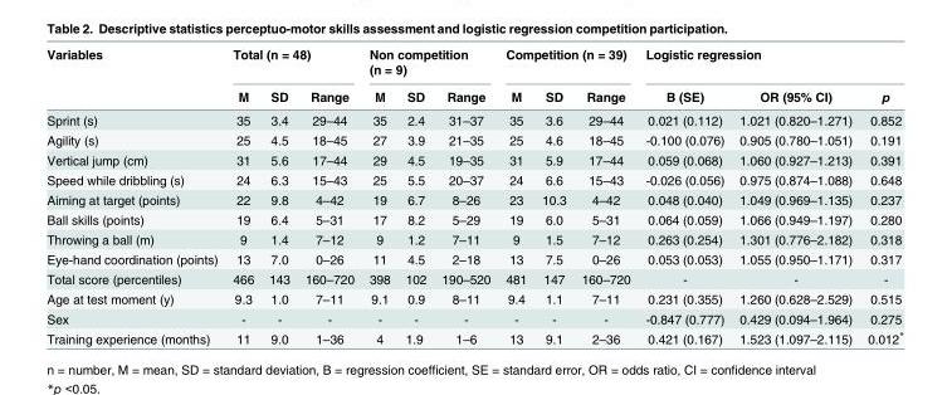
<table><thead><tr><td rowspan="2">Variables</td><td colspan="3">Total (n = 48)</td><td colspan="3">Non competition (n = 9)</td><td colspan="3">Competition (n = 39)</td><td colspan="3">Logistic regression</td></tr><tr><td>M</td><td>SD</td><td>Range</td><td>M</td><td>SD</td><td>Range</td><td>M</td><td>SD</td><td>Range</td><td>B (SE)</td><td>OR (95% CI)</td><td>p</td></tr></thead><tbody><tr><td>Sprint (s)</td><td>35</td><td>3.4</td><td>29–44</td><td>35</td><td>2.4</td><td>31–37</td><td>35</td><td>3.6</td><td>29–44</td><td>0.021 (0.112)</td><td>1.021 (0.820–1.271)</td><td>0.852</td></tr><tr><td>Agility (s)</td><td>25</td><td>4.5</td><td>18–45</td><td>27</td><td>3.9</td><td>21–35</td><td>25</td><td>4.6</td><td>18–45</td><td>-0.100 (0.076)</td><td>0.905 (0.780–1.051)</td><td>0.191</td></tr><tr><td>Vertical jump (cm)</td><td>31</td><td>5.6</td><td>17–44</td><td>29</td><td>4.5</td><td>19–35</td><td>31</td><td>5.9</td><td>17–44</td><td>0.059 (0.068)</td><td>1.060 (0.927–1.213)</td><td>0.391</td></tr><tr><td>Speed while dribbling (s)</td><td>24</td><td>6.3</td><td>15–43</td><td>25</td><td>5.5</td><td>20–37</td><td>24</td><td>6.6</td><td>15–43</td><td>-0.026 (0.056)</td><td>0.975 (0.874–1.088)</td><td>0.648</td></tr><tr><td>Aiming at target (points)</td><td>22</td><td>9.8</td><td>4–42</td><td>19</td><td>6.7</td><td>8–26</td><td>23</td><td>10.3</td><td>4–42</td><td>0.048 (0.040)</td><td>1.049 (0.969–1.135)</td><td>0.237</td></tr><tr><td>Ball skills (points)</td><td>19</td><td>6.4</td><td>5–31</td><td>17</td><td>8.2</td><td>5–29</td><td>19</td><td>6.0</td><td>5–31</td><td>0.064 (0.059)</td><td>1.066 (0.949–1.197)</td><td>0.280</td></tr><tr><td>Throwing a ball (m)</td><td>9</td><td>1.4</td><td>7–12</td><td>9</td><td>1.2</td><td>7–11</td><td>9</td><td>1.5</td><td>7–12</td><td>0.263 (0.254)</td><td>1.301 (0.776–2.182)</td><td>0.318</td></tr><tr><td>Eye-hand coordination (points)</td><td>13</td><td>7.0</td><td>0–26</td><td>11</td><td>4.5</td><td>2–18</td><td>13</td><td>7.5</td><td>0–26</td><td>0.053 (0.053)</td><td>1.055 (0.950–1.171)</td><td>0.317</td></tr><tr><td>Total score (percentiles)</td><td>466</td><td>143</td><td>160–720</td><td>398</td><td>102</td><td>190–520</td><td>481</td><td>147</td><td>160–720</td><td>-</td><td>-</td><td>-</td></tr><tr><td>Age at test moment (y)</td><td>9.3</td><td>1.0</td><td>7–11</td><td>9.1</td><td>0.9</td><td>8–11</td><td>9.4</td><td>1.1</td><td>7–11</td><td>0.231 (0.355)</td><td>1.260 (0.628–2.529)</td><td>0.515</td></tr><tr><td>Sex</td><td>-</td><td>-</td><td>-</td><td>-</td><td>-</td><td>-</td><td>-</td><td>-</td><td>-</td><td>-0.847 (0.777)</td><td>0.429 (0.094–1.964)</td><td>0.275</td></tr><tr><td>Training experience (months)</td><td>11</td><td>9.0</td><td>1–36</td><td>4</td><td>1.9</td><td>1–6</td><td>13</td><td>9.1</td><td>2–36</td><td>0.421 (0.167)</td><td>1.523 (1.097–2.115)</td><td>0.012*</td></tr></tbody></table>